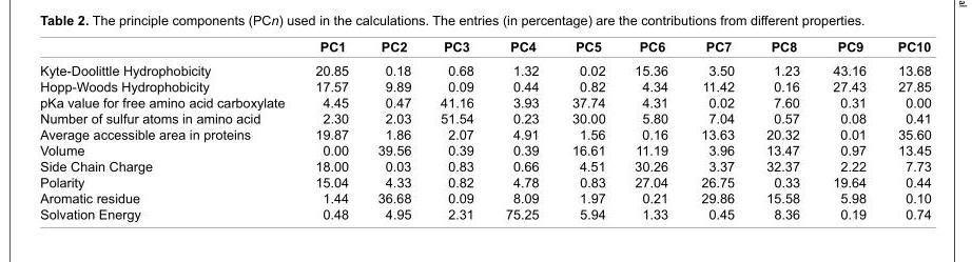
<table><thead><tr><td></td><td>PC1</td><td>PC2</td><td>PC3</td><td>PC4</td><td>PC5</td><td>PC6</td><td>PC7</td><td>PC8</td><td>PC9</td><td>PC10</td></tr></thead><tbody><tr><td>Kyte-Doolittle Hydrophobicity</td><td>20.85</td><td>0.18</td><td>0.68</td><td>1.32</td><td>0.02</td><td>15.36</td><td>3.50</td><td>1.23</td><td>43.16</td><td>13.68</td></tr><tr><td>Hopp-Woods Hydrophobicity</td><td>17.57</td><td>9.89</td><td>0.09</td><td>0.44</td><td>0.82</td><td>4.34</td><td>11.42</td><td>0.16</td><td>27.43</td><td>27.85</td></tr><tr><td>pKa value for free amino acid carboxylate</td><td>4.45</td><td>0.47</td><td>41.16</td><td>3.93</td><td>37.74</td><td>4.31</td><td>0.02</td><td>7.60</td><td>0.31</td><td>0.00</td></tr><tr><td>Number of sulfur atoms in amino acid</td><td>2.30</td><td>2.03</td><td>51.54</td><td>0.23</td><td>30.00</td><td>5.80</td><td>7.04</td><td>0.57</td><td>0.08</td><td>0.41</td></tr><tr><td>Average accessible area in proteins</td><td>19.87</td><td>1.86</td><td>2.07</td><td>4.91</td><td>1.56</td><td>0.16</td><td>13.63</td><td>20.32</td><td>0.01</td><td>35.60</td></tr><tr><td>Volume</td><td>0.00</td><td>39.56</td><td>0.39</td><td>0.39</td><td>16.61</td><td>11.19</td><td>3.96</td><td>13.47</td><td>0.97</td><td>13.45</td></tr><tr><td>Side Chain Charge</td><td>18.00</td><td>0.03</td><td>0.83</td><td>0.66</td><td>4.51</td><td>30.26</td><td>3.37</td><td>32.37</td><td>2.22</td><td>7.73</td></tr><tr><td>Polarity</td><td>15.04</td><td>4.33</td><td>0.82</td><td>4.78</td><td>0.83</td><td>27.04</td><td>26.75</td><td>0.33</td><td>19.64</td><td>0.44</td></tr><tr><td>Aromatic residue</td><td>1.44</td><td>36.68</td><td>0.09</td><td>8.09</td><td>1.97</td><td>0.21</td><td>29.86</td><td>15.58</td><td>5.98</td><td>0.10</td></tr><tr><td>Solvation Energy</td><td>0.48</td><td>4.95</td><td>2.31</td><td>75.25</td><td>5.94</td><td>1.33</td><td>0.45</td><td>8.36</td><td>0.19</td><td>0.74</td></tr></tbody></table>